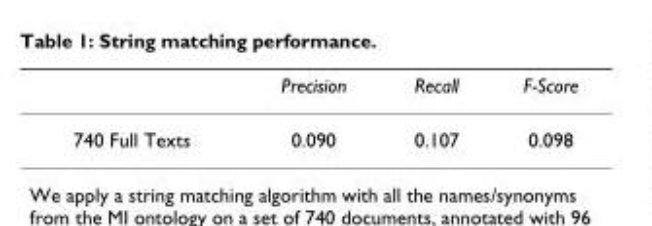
<table><thead><tr><td></td><td>Precision</td><td>Recall</td><td>F-Score</td></tr></thead><tbody><tr><td>740 Full Texts</td><td>0.090</td><td>0.107</td><td>0.098</td></tr></tbody></table>